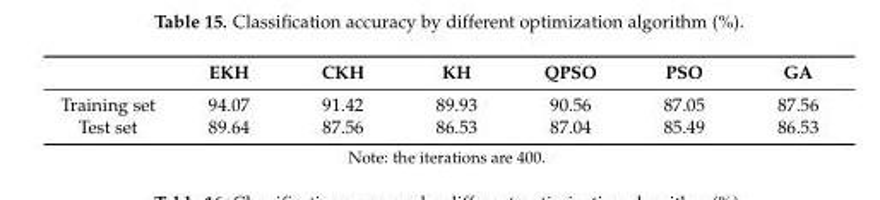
<table><thead><tr><td></td><td>EKH</td><td>CKH</td><td>KH</td><td>QPSO</td><td>PSO</td><td>GA</td></tr></thead><tbody><tr><td>Training set</td><td>94.07</td><td>91.42</td><td>89.93</td><td>90.56</td><td>87.05</td><td>87.56</td></tr><tr><td>Test set</td><td>89.64</td><td>87.56</td><td>86.53</td><td>87.04</td><td>85.49</td><td>86.53</td></tr></tbody></table>